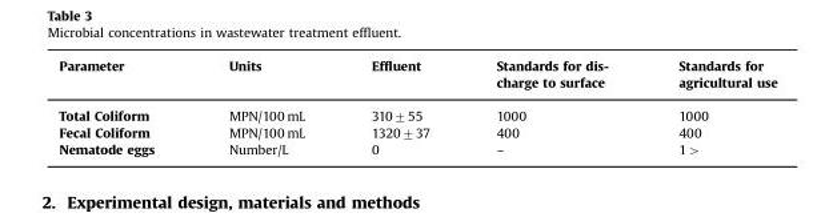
<table><thead><tr><td>Parameter</td><td>Units</td><td>Effluent</td><td>Standards for dis- charge to surface</td><td>Standards for agricultural use</td></tr></thead><tbody><tr><td>Total Coliform</td><td>MPN/100 mL</td><td>310±55</td><td>1000</td><td>1000</td></tr><tr><td>Fecal Coliform</td><td>MPN/100 mL</td><td>1320±37</td><td>400</td><td>400</td></tr><tr><td>Nematode eggs</td><td>Number/L</td><td>0</td><td>–</td><td>1&gt;</td></tr></tbody></table>